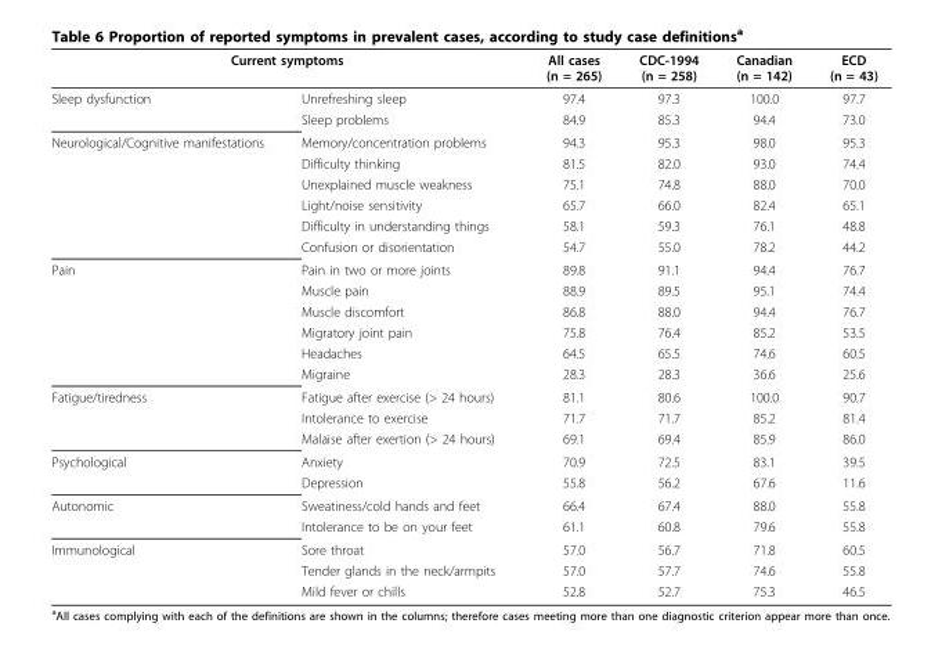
<table><thead><tr><td colspan="2">Current symptoms</td><td rowspan="2">All cases (n = 265) 97.4</td><td rowspan="2">CDC-1994 (n = 258) 97.3</td><td rowspan="2">Canadian (n = 142) 100.0</td><td rowspan="2">ECD (n = 43) 97.7</td></tr><tr><td>Sleep dysfunction</td><td>Unrefreshing sleep</td></tr></thead><tbody><tr><td></td><td>Sleep problems</td><td>84.9</td><td>85.3</td><td>94.4</td><td>73.0</td></tr><tr><td rowspan="6">Neurological/Cognitive manifestations</td><td>Memory/concentration problems</td><td>94.3</td><td>95.3</td><td>98.0</td><td>95.3</td></tr><tr><td>Difficulty thinking</td><td>81.5</td><td>82.0</td><td>93.0</td><td>74.4</td></tr><tr><td>Unexplained muscle weakness</td><td>75.1</td><td>74.8</td><td>88.0</td><td>70.0</td></tr><tr><td>Light/noise sensitivity</td><td>65.7</td><td>66.0</td><td>82.4</td><td>65.1</td></tr><tr><td>Difficulty in understanding things</td><td>58.1</td><td>59.3</td><td>76.1</td><td>48.8</td></tr><tr><td>Confusion or disorientation</td><td>54.7</td><td>55.0</td><td>78.2</td><td>44.2</td></tr><tr><td rowspan="6">Pain</td><td>Pain in two or more joints</td><td>89.8</td><td>91.1</td><td>94.4</td><td>76.7</td></tr><tr><td>Muscle pain</td><td>88.9</td><td>89.5</td><td>95.1</td><td>74.4</td></tr><tr><td>Muscle discomfort</td><td>86.8</td><td>88.0</td><td>94.4</td><td>76.7</td></tr><tr><td>Migratory joint pain</td><td>75.8</td><td>76.4</td><td>85.2</td><td>53.5</td></tr><tr><td>Headaches</td><td>64.5</td><td>65.5</td><td>74.6</td><td>60.5</td></tr><tr><td>Migraine</td><td>28.3</td><td>28.3</td><td>36.6</td><td>25.6</td></tr><tr><td rowspan="3">Fatigue/tiredness</td><td>Fatigue after exercise (&gt; 24 hours)</td><td>81.1</td><td>80.6</td><td>100.0</td><td>90.7</td></tr><tr><td>Intolerance to exercise</td><td>71.7</td><td>71.7</td><td>85.2</td><td>81.4</td></tr><tr><td>Malaise after exertion (&gt; 24 hours)</td><td>69.1</td><td>69.4</td><td>85.9</td><td>86.0</td></tr><tr><td rowspan="2">Psychological</td><td>Anxiety</td><td>70.9</td><td>72.5</td><td>83.1</td><td>39.5</td></tr><tr><td>Depression</td><td>55.8</td><td>56.2</td><td>67.6</td><td>11.6</td></tr><tr><td rowspan="2">Autonomic</td><td>Sweatiness/cold hands and feet</td><td>66.4</td><td>67.4</td><td>88.0</td><td>55.8</td></tr><tr><td>Intolerance to be on your feet</td><td>61.1</td><td>60.8</td><td>79.6</td><td>55.8</td></tr><tr><td rowspan="3">Immunological</td><td>Sore throat</td><td>57.0</td><td>56.7</td><td>71.8</td><td>60.5</td></tr><tr><td>Tender glands in the neck/armpits</td><td>57.0</td><td>57.7</td><td>74.6</td><td>55.8</td></tr><tr><td>Mild fever or chills</td><td>52.8</td><td>52.7</td><td>75.3</td><td>46.5</td></tr></tbody></table>